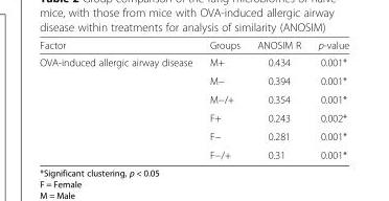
<table><thead><tr><td>Factor</td><td>Groups</td><td>ANOSIM R</td><td>p-value</td></tr></thead><tbody><tr><td rowspan="6">OVA-induced allergic airway disease</td><td>M+</td><td>0.434</td><td>0.001*</td></tr><tr><td>M−</td><td>0.394</td><td>0.001*</td></tr><tr><td>M−/+</td><td>0.354</td><td>0.001*</td></tr><tr><td>F+</td><td>0.243</td><td>0.002*</td></tr><tr><td>F−</td><td>0.281</td><td>0.001*</td></tr><tr><td>F−/+</td><td>0.31</td><td>0.001*</td></tr></tbody></table>